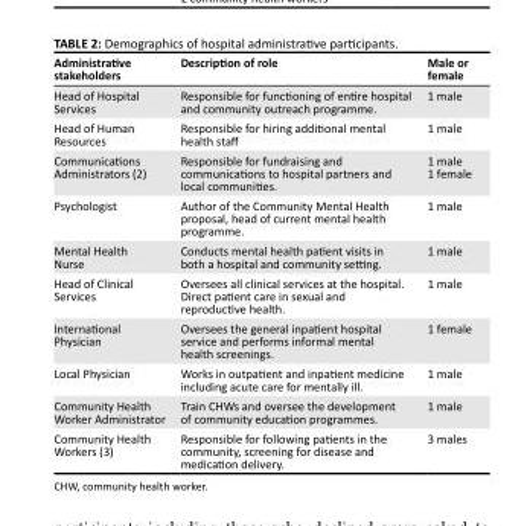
<table><thead><tr><td>Administrative stakeholders</td><td>Description of role</td><td>Male or female</td></tr></thead><tbody><tr><td>Head of Hospital Services</td><td>Responsible for functioning of entire hospital and community outreach programme.</td><td>1 male</td></tr><tr><td>Head of Human Resources</td><td>Responsible for hiring additional mental health staff</td><td>1 male</td></tr><tr><td>Communications Administrators (2)</td><td>Responsible for fundraising and communications to hospital partners and local communities.</td><td>1 male 1 female</td></tr><tr><td>Psychologist</td><td>Author of the Community Mental Health proposal, head of current mental health programme.</td><td>1 male</td></tr><tr><td>Mental Health Nurse</td><td>Conducts mental health patient visits in both a hospital and community setting.</td><td>1 male</td></tr><tr><td>Head of Clinical Services</td><td>Oversees all clinical services at the hospital. Direct patient care in sexual and reproductive health.</td><td>1 male</td></tr><tr><td>International Physician</td><td>Oversees the general inpatient hospital service and performs informal mental health screenings.</td><td>1 female</td></tr><tr><td>Local Physician</td><td>Works in outpatient and inpatient medicine including acute care for mentally ill.</td><td>1 male</td></tr><tr><td>Community Health Worker Administrator</td><td>Train CHWs and oversee the development of community education programmes.</td><td>1 male</td></tr><tr><td>Community Health Workers (3)</td><td>Responsible for following patients in the community, screening for disease and medication delivery.</td><td>3 males</td></tr></tbody></table>